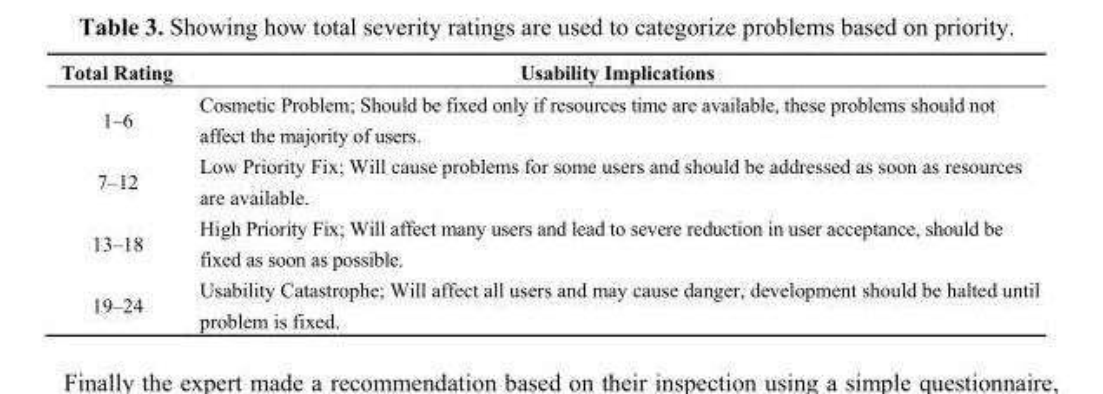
<table><thead><tr><td>Total Rating</td><td>Usability Implications</td></tr></thead><tbody><tr><td>1–6</td><td>Cosmetic Problem; Should be fixed only if resources time are available, these problems should not affect the majority of users.</td></tr><tr><td>7–12</td><td>Low Priority Fix; Will cause problems for some users and should be addressed as soon as resources are available.</td></tr><tr><td>13–18</td><td>High Priority Fix; Will affect many users and lead to severe reduction in user acceptance, should be fixed as soon as possible.</td></tr><tr><td>19–24</td><td>Usability Catastrophe; Will affect all users and may cause danger, development should be halted until problem is fixed.</td></tr></tbody></table>